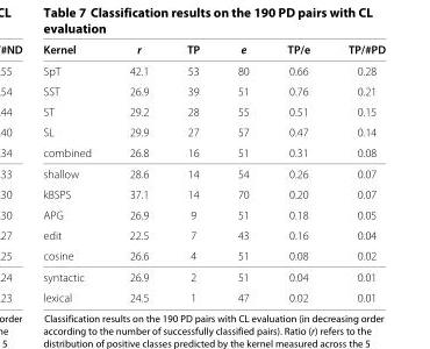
<table><thead><tr><td>Kernel</td><td>r</td><td>TP</td><td>e</td><td>TP/e</td><td>TP/#PD</td></tr></thead><tbody><tr><td>SpT</td><td>42.1</td><td>53</td><td>80</td><td>0.66</td><td>0.28</td></tr><tr><td>SST</td><td>26.9</td><td>39</td><td>51</td><td>0.76</td><td>0.21</td></tr><tr><td>ST</td><td>29.2</td><td>28</td><td>55</td><td>0.51</td><td>0.15</td></tr><tr><td>SL</td><td>29.9</td><td>27</td><td>57</td><td>0.47</td><td>0.14</td></tr><tr><td>combined</td><td>26.8</td><td>16</td><td>51</td><td>0.31</td><td>0.08</td></tr><tr><td>shallow</td><td>28.6</td><td>14</td><td>54</td><td>0.26</td><td>0.07</td></tr><tr><td>kBSPS</td><td>37.1</td><td>14</td><td>70</td><td>0.20</td><td>0.07</td></tr><tr><td>APG</td><td>26.9</td><td>9</td><td>51</td><td>0.18</td><td>0.05</td></tr><tr><td>edit</td><td>22.5</td><td>7</td><td>43</td><td>0.16</td><td>0.04</td></tr><tr><td>cosine</td><td>26.6</td><td>4</td><td>51</td><td>0.08</td><td>0.02</td></tr><tr><td>syntactic</td><td>26.9</td><td>2</td><td>51</td><td>0.04</td><td>0.01</td></tr><tr><td>lexical</td><td>24.5</td><td>1</td><td>47</td><td>0.02</td><td>0.01</td></tr></tbody></table>